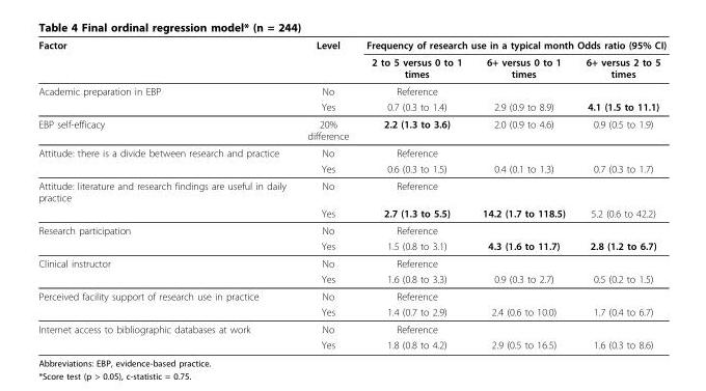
<table><thead><tr><td rowspan="2">Factor</td><td rowspan="2">Level</td><td colspan="3">Frequency of research use in a typical month Odds ratio (95% CI)</td></tr><tr><td>2 to 5 versus 0 to 1 times</td><td>6+ versus 0 to 1 times</td><td>6+ versus 2 to 5 times</td></tr></thead><tbody><tr><td rowspan="2">Academic preparation in EBP</td><td>No</td><td>Reference</td><td></td><td></td></tr><tr><td>Yes</td><td>0.7 (0.3 to 1.4)</td><td>2.9 (0.9 to 8.9)</td><td>4.1 (1.5 to 11.1)</td></tr><tr><td>EBP self-efficacy</td><td>20% difference</td><td>2.2 (1.3 to 3.6)</td><td>2.0 (0.9 to 4.6)</td><td>0.9 (0.5 to 1.9)</td></tr><tr><td rowspan="2">Attitude: there is a divide between research and practice</td><td>No</td><td>Reference</td><td></td><td></td></tr><tr><td>Yes</td><td>0.6 (0.3 to 1.5)</td><td>0.4 (0.1 to 1.3)</td><td>0.7 (0.3 to 1.7)</td></tr><tr><td rowspan="2">Attitude: literature and research findings are useful in daily practice</td><td>No</td><td>Reference</td><td></td><td></td></tr><tr><td>Yes</td><td>2.7 (1.3 to 5.5)</td><td>14.2 (1.7 to 118.5)</td><td>5.2 (0.6 to 42.2)</td></tr><tr><td rowspan="2">Research participation</td><td>No</td><td>Reference</td><td></td><td></td></tr><tr><td>Yes</td><td>1.5 (0.8 to 3.1)</td><td>4.3 (1.6 to 11.7)</td><td>2.8 (1.2 to 6.7)</td></tr><tr><td rowspan="2">Clinical instructor</td><td>No</td><td>Reference</td><td></td><td></td></tr><tr><td>Yes</td><td>1.6 (0.8 to 3.3)</td><td>0.9 (0.3 to 2.7)</td><td>0.5 (0.2 to 1.5)</td></tr><tr><td rowspan="2">Perceived facility support of research use in practice</td><td>No</td><td>Reference</td><td></td><td></td></tr><tr><td>Yes</td><td>1.4 (0.7 to 2.9)</td><td>2.4 (0.6 to 10.0)</td><td>1.7 (0.4 to 6.7)</td></tr><tr><td rowspan="2">Internet access to bibliographic databases at work</td><td>No</td><td>Reference</td><td></td><td></td></tr><tr><td>Yes</td><td>1.8 (0.8 to 4.2)</td><td>2.9 (0.5 to 16.5)</td><td>1.6 (0.3 to 8.6)</td></tr></tbody></table>